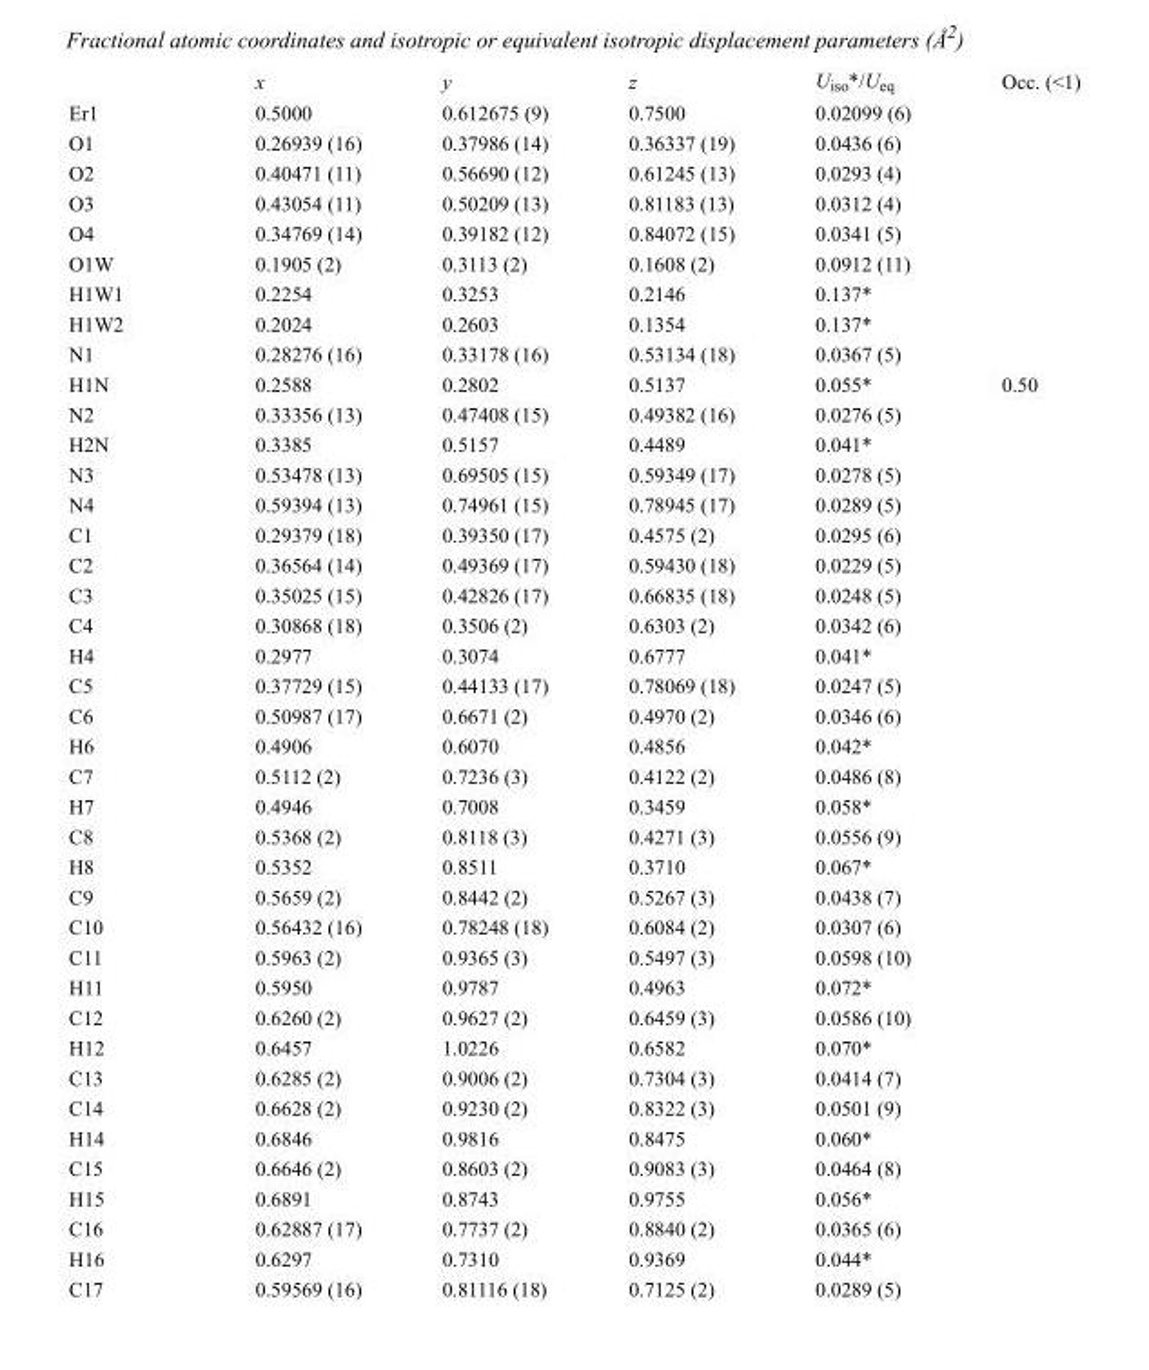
<table><thead><tr><td></td><td>x</td><td>y</td><td>z</td><td>U<sub>iso</sub>*/U<sub>eq</sub></td><td>Occ. (&lt;1)</td></tr></thead><tbody><tr><td>Er1</td><td>0.5000</td><td>0.612675 (9)</td><td>0.7500</td><td>0.02099 (6)</td><td></td></tr><tr><td>O1</td><td>0.26939 (16)</td><td>0.37986 (14)</td><td>0.36337 (19)</td><td>0.0436 (6)</td><td></td></tr><tr><td>O2</td><td>0.40471 (11)</td><td>0.56690 (12)</td><td>0.61245 (13)</td><td>0.0293 (4)</td><td></td></tr><tr><td>O3</td><td>0.43054 (11)</td><td>0.50209 (13)</td><td>0.81183 (13)</td><td>0.0312 (4)</td><td></td></tr><tr><td>O4</td><td>0.34769 (14)</td><td>0.39182 (12)</td><td>0.84072 (15)</td><td>0.0341 (5)</td><td></td></tr><tr><td>O1W</td><td>0.1905 (2)</td><td>0.3113 (2)</td><td>0.1608 (2)</td><td>0.0912 (11)</td><td></td></tr><tr><td>H1W1</td><td>0.2254</td><td>0.3253</td><td>0.2146</td><td>0.137*</td><td></td></tr><tr><td>H1W2</td><td>0.2024</td><td>0.2603</td><td>0.1354</td><td>0.137*</td><td></td></tr><tr><td>N1</td><td>0.28276 (16)</td><td>0.33178 (16)</td><td>0.53134 (18)</td><td>0.0367 (5)</td><td></td></tr><tr><td>H1N</td><td>0.2588</td><td>0.2802</td><td>0.5137</td><td>0.055*</td><td>0.50</td></tr><tr><td>N2</td><td>0.33356 (13)</td><td>0.47408 (15)</td><td>0.49382 (16)</td><td>0.0276 (5)</td><td></td></tr><tr><td>H2N</td><td>0.3385</td><td>0.5157</td><td>0.4489</td><td>0.041*</td><td></td></tr><tr><td>N3</td><td>0.53478 (13)</td><td>0.69505 (15)</td><td>0.59349 (17)</td><td>0.0278 (5)</td><td></td></tr><tr><td>N4</td><td>0.59394 (13)</td><td>0.74961 (15)</td><td>0.78945 (17)</td><td>0.0289 (5)</td><td></td></tr><tr><td>C1</td><td>0.29379 (18)</td><td>0.39350 (17)</td><td>0.4575 (2)</td><td>0.0295 (6)</td><td></td></tr><tr><td>C2</td><td>0.36564 (14)</td><td>0.49369 (17)</td><td>0.59430 (18)</td><td>0.0229 (5)</td><td></td></tr><tr><td>C3</td><td>0.35025 (15)</td><td>0.42826 (17)</td><td>0.66835 (18)</td><td>0.0248 (5)</td><td></td></tr><tr><td>C4</td><td>0.30868 (18)</td><td>0.3506 (2)</td><td>0.6303 (2)</td><td>0.0342 (6)</td><td></td></tr><tr><td>H4</td><td>0.2977</td><td>0.3074</td><td>0.6777</td><td>0.041*</td><td></td></tr><tr><td>C5</td><td>0.37729 (15)</td><td>0.44133 (17)</td><td>0.78069 (18)</td><td>0.0247 (5)</td><td></td></tr><tr><td>C6</td><td>0.50987 (17)</td><td>0.6671 (2)</td><td>0.4970 (2)</td><td>0.0346 (6)</td><td></td></tr><tr><td>H6</td><td>0.4906</td><td>0.6070</td><td>0.4856</td><td>0.042*</td><td></td></tr><tr><td>C7</td><td>0.5112 (2)</td><td>0.7236 (3)</td><td>0.4122 (2)</td><td>0.0486 (8)</td><td></td></tr><tr><td>H7</td><td>0.4946</td><td>0.7008</td><td>0.3459</td><td>0.058*</td><td></td></tr><tr><td>C8</td><td>0.5368 (2)</td><td>0.8118 (3)</td><td>0.4271 (3)</td><td>0.0556 (9)</td><td></td></tr><tr><td>H8</td><td>0.5352</td><td>0.8511</td><td>0.3710</td><td>0.067*</td><td></td></tr><tr><td>C9</td><td>0.5659 (2)</td><td>0.8442 (2)</td><td>0.5267 (3)</td><td>0.0438 (7)</td><td></td></tr><tr><td>C10</td><td>0.56432 (16)</td><td>0.78248 (18)</td><td>0.6084 (2)</td><td>0.0307 (6)</td><td></td></tr><tr><td>C11</td><td>0.5963 (2)</td><td>0.9365 (3)</td><td>0.5497 (3)</td><td>0.0598 (10)</td><td></td></tr><tr><td>H11</td><td>0.5950</td><td>0.9787</td><td>0.4963</td><td>0.072*</td><td></td></tr><tr><td>C12</td><td>0.6260 (2)</td><td>0.9627 (2)</td><td>0.6459 (3)</td><td>0.0586 (10)</td><td></td></tr><tr><td>H12</td><td>0.6457</td><td>1.0226</td><td>0.6582</td><td>0.070*</td><td></td></tr><tr><td>C13</td><td>0.6285 (2)</td><td>0.9006 (2)</td><td>0.7304 (3)</td><td>0.0414 (7)</td><td></td></tr><tr><td>C14</td><td>0.6628 (2)</td><td>0.9230 (2)</td><td>0.8322 (3)</td><td>0.0501 (9)</td><td></td></tr><tr><td>H14</td><td>0.6846</td><td>0.9816</td><td>0.8475</td><td>0.060*</td><td></td></tr><tr><td>C15</td><td>0.6646 (2)</td><td>0.8603 (2)</td><td>0.9083 (3)</td><td>0.0464 (8)</td><td></td></tr><tr><td>H15</td><td>0.6891</td><td>0.8743</td><td>0.9755</td><td>0.056*</td><td></td></tr><tr><td>C16</td><td>0.62887 (17)</td><td>0.7737 (2)</td><td>0.8840 (2)</td><td>0.0365 (6)</td><td></td></tr><tr><td>H16</td><td>0.6297</td><td>0.7310</td><td>0.9369</td><td>0.044*</td><td></td></tr><tr><td>C17</td><td>0.59569 (16)</td><td>0.81116 (18)</td><td>0.7125 (2)</td><td>0.0289 (5)</td><td></td></tr></tbody></table>